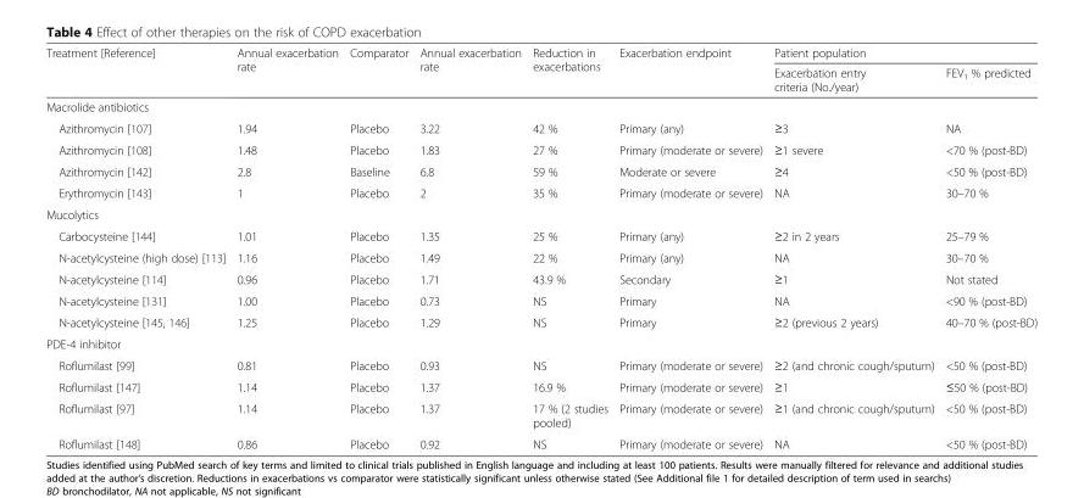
<table><thead><tr><td rowspan="2">Treatment [Reference]</td><td rowspan="2">Annual exacerbation rate</td><td rowspan="2">Comparator</td><td rowspan="2">Annual exacerbation rate</td><td rowspan="2">Reduction in exacerbations</td><td rowspan="2">Exacerbation endpoint</td><td colspan="2">Patient population</td></tr><tr><td>Exacerbation entry criteria (No./year)</td><td>FEV<sub>1</sub> % predicted</td></tr></thead><tbody><tr><td colspan="8">Macrolide antibiotics</td></tr><tr><td>Azithromycin [107]</td><td>1.94</td><td>Placebo</td><td>3.22</td><td>42 %</td><td>Primary (any)</td><td>≥3</td><td>NA</td></tr><tr><td>Azithromycin [108]</td><td>1.48</td><td>Placebo</td><td>1.83</td><td>27 %</td><td>Primary (moderate or severe)</td><td>≥1 severe</td><td>&lt;70 % (post-BD)</td></tr><tr><td>Azithromycin [142]</td><td>2.8</td><td>Baseline</td><td>6.8</td><td>59 %</td><td>Moderate or severe</td><td>≥4</td><td>&lt;50 % (post-BD)</td></tr><tr><td>Erythromycin [143]</td><td>1</td><td>Placebo</td><td>2</td><td>35 %</td><td>Primary (moderate or severe)</td><td>NA</td><td>30–70 %</td></tr><tr><td colspan="8">Mucolytics</td></tr><tr><td>Carbocysteine [144]</td><td>1.01</td><td>Placebo</td><td>1.35</td><td>25 %</td><td>Primary (any)</td><td>≥2 in 2 years</td><td>25–79 %</td></tr><tr><td>N-acetylcysteine (high dose) [113]</td><td>1.16</td><td>Placebo</td><td>1.49</td><td>22 %</td><td>Primary (any)</td><td>NA</td><td>30–70 %</td></tr><tr><td>N-acetylcysteine [114]</td><td>0.96</td><td>Placebo</td><td>1.71</td><td>43.9 %</td><td>Secondary</td><td>≥1</td><td>Not stated</td></tr><tr><td>N-acetylcysteine [131]</td><td>1.00</td><td>Placebo</td><td>0.73</td><td>NS</td><td>Primary</td><td>NA</td><td>&lt;90 % (post-BD)</td></tr><tr><td>N-acetylcysteine [145, 146]</td><td>1.25</td><td>Placebo</td><td>1.29</td><td>NS</td><td>Primary</td><td>≥2 (previous 2 years)</td><td>40–70 % (post-BD)</td></tr><tr><td colspan="8">PDE-4 inhibitor</td></tr><tr><td>Roflumilast [99]</td><td>0.81</td><td>Placebo</td><td>0.93</td><td>NS</td><td>Primary (moderate or severe)</td><td>≥2 (and chronic cough/sputum)</td><td>&lt;50 % (post-BD)</td></tr><tr><td>Roflumilast [147]</td><td>1.14</td><td>Placebo</td><td>1.37</td><td>16.9 %</td><td>Primary (moderate or severe)</td><td>≥1</td><td>≤50 % (post-BD)</td></tr><tr><td>Roflumilast [97]</td><td>1.14</td><td>Placebo</td><td>1.37</td><td>17 % (2 studies pooled)</td><td>Primary (moderate or severe)</td><td>≥1 (and chronic cough/sputum)</td><td>&lt;50 % (post-BD)</td></tr><tr><td>Roflumilast [148]</td><td>0.86</td><td>Placebo</td><td>0.92</td><td>NS</td><td>Primary (moderate or severe)</td><td>NA</td><td>&lt;50 % (post-BD)</td></tr></tbody></table>